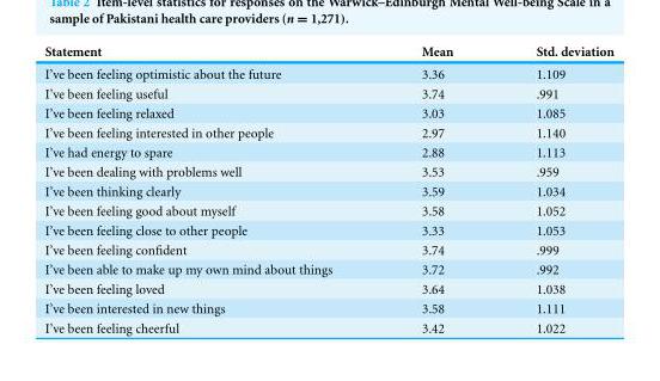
<table><thead><tr><td>Statement</td><td>Mean</td><td>Std. deviation</td></tr></thead><tbody><tr><td>I’ve been feeling optimistic about the future</td><td>3.36</td><td>1.109</td></tr><tr><td>I’ve been feeling useful</td><td>3.74</td><td>.991</td></tr><tr><td>I’ve been feeling relaxed</td><td>3.03</td><td>1.085</td></tr><tr><td>I’ve been feeling interested in other people</td><td>2.97</td><td>1.140</td></tr><tr><td>I’ve had energy to spare</td><td>2.88</td><td>1.113</td></tr><tr><td>I’ve been dealing with problems well</td><td>3.53</td><td>.959</td></tr><tr><td>I’ve been thinking clearly</td><td>3.59</td><td>1.034</td></tr><tr><td>I’ve been feeling good about myself</td><td>3.58</td><td>1.052</td></tr><tr><td>I’ve been feeling close to other people</td><td>3.33</td><td>1.053</td></tr><tr><td>I’ve been feeling confident</td><td>3.74</td><td>.999</td></tr><tr><td>I’ve been able to make up my own mind about things</td><td>3.72</td><td>.992</td></tr><tr><td>I’ve been feeling loved</td><td>3.64</td><td>1.038</td></tr><tr><td>I’ve been interested in new things</td><td>3.58</td><td>1.111</td></tr><tr><td>I’ve been feeling cheerful</td><td>3.42</td><td>1.022</td></tr></tbody></table>